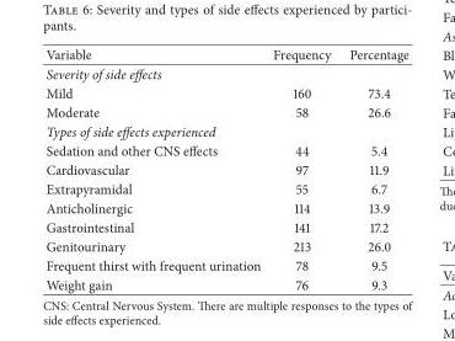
<table><thead><tr><td>Variable</td><td>Frequency</td><td>Percentage</td></tr></thead><tbody><tr><td colspan="3">Severity of side effects</td></tr><tr><td>Mild</td><td>160</td><td>73.4</td></tr><tr><td>Moderate</td><td>58</td><td>26.6</td></tr><tr><td colspan="3">Types of side effects experienced</td></tr><tr><td>Sedation and other CNS effects</td><td>44</td><td>5.4</td></tr><tr><td>Cardiovascular</td><td>97</td><td>11.9</td></tr><tr><td>Extrapyramidal</td><td>55</td><td>6.7</td></tr><tr><td>Anticholinergic</td><td>114</td><td>13.9</td></tr><tr><td>Gastrointestinal</td><td>141</td><td>17.2</td></tr><tr><td>Genitourinary</td><td>213</td><td>26.0</td></tr><tr><td>Frequent thirst with frequent urination</td><td>78</td><td>9.5</td></tr><tr><td>Weight gain</td><td>76</td><td>9.3</td></tr></tbody></table>